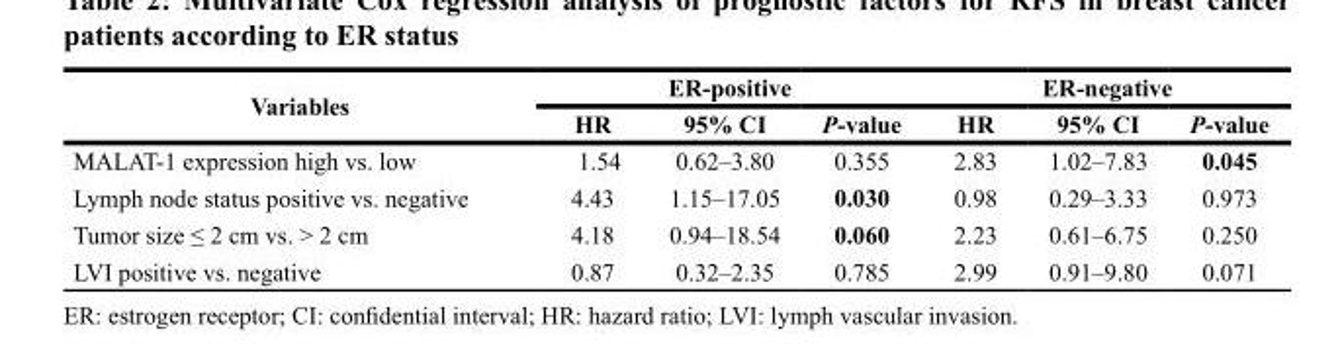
<table><thead><tr><td rowspan="2">Variables</td><td colspan="3">ER-positive</td><td colspan="3">ER-negative</td></tr><tr><td>HR</td><td>95% CI</td><td>P-value</td><td>HR</td><td>95% CI</td><td>P-value</td></tr></thead><tbody><tr><td>MALAT-1 expression high vs. low</td><td>1.54</td><td>0.62–3.80</td><td>0.355</td><td>2.83</td><td>1.02–7.83</td><td>0.045</td></tr><tr><td>Lymph node status positive vs. negative</td><td>4.43</td><td>1.15–17.05</td><td>0.030</td><td>0.98</td><td>0.29–3.33</td><td>0.973</td></tr><tr><td>Tumor size ≤ 2 cm vs. &gt; 2 cm</td><td>4.18</td><td>0.94–18.54</td><td>0.060</td><td>2.23</td><td>0.61–6.75</td><td>0.250</td></tr><tr><td>LVI positive vs. negative</td><td>0.87</td><td>0.32–2.35</td><td>0.785</td><td>2.99</td><td>0.91–9.80</td><td>0.071</td></tr></tbody></table>